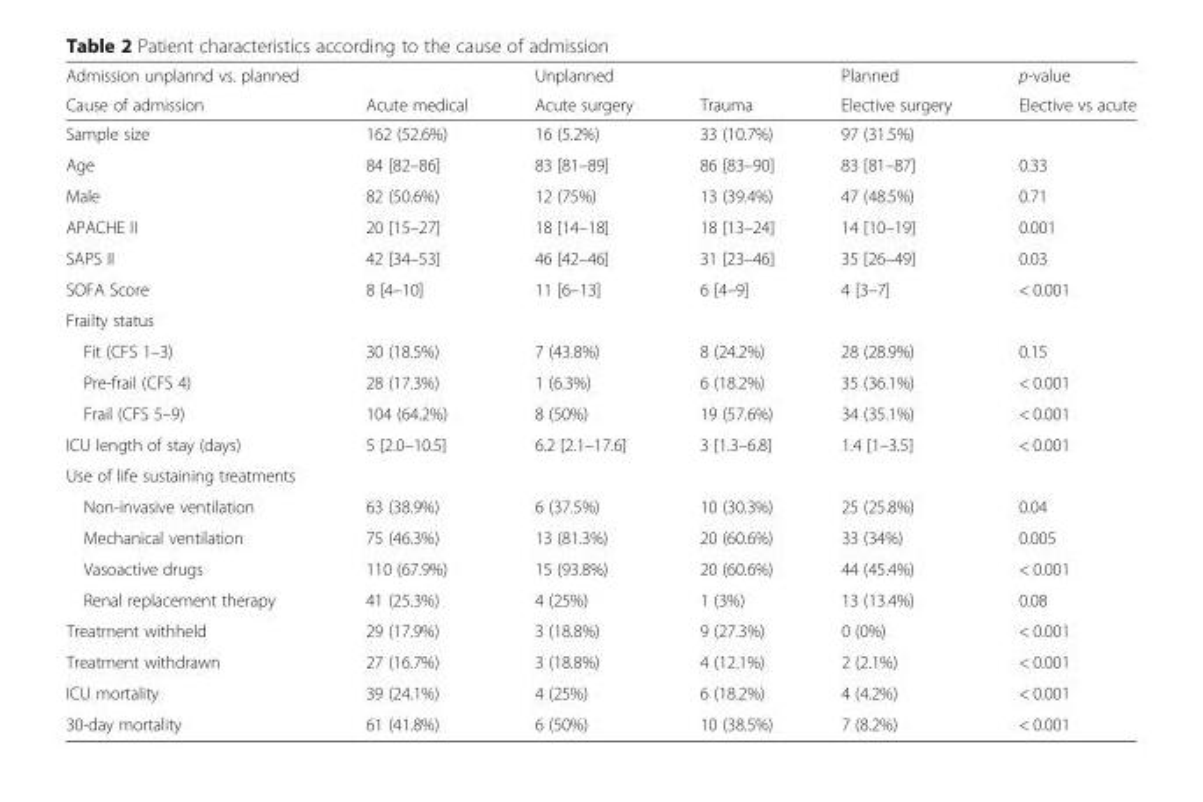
<table><thead><tr><td rowspan="2">Admission unplannd vs. planned Cause of admission</td><td rowspan="2">Acute medical</td><td rowspan="2">Unplanned Acute surgery</td><td rowspan="2">Trauma</td><td rowspan="2">Planned Elective surgery</td><td rowspan="2">p-value Elective vs acute</td></tr><tr></tr></thead><tbody><tr><td>Sample size</td><td>162 (52.6%)</td><td>16 (5.2%)</td><td>33 (10.7%)</td><td>97 (31.5%)</td><td></td></tr><tr><td>Age</td><td>84 [82–86]</td><td>83 [81–89]</td><td>86 [83–90]</td><td>83 [81–87]</td><td>0.33</td></tr><tr><td>Male</td><td>82 (50.6%)</td><td>12 (75%)</td><td>13 (39.4%)</td><td>47 (48.5%)</td><td>0.71</td></tr><tr><td>APACHE II</td><td>20 [15–27]</td><td>18 [14–18]</td><td>18 [13–24]</td><td>14 [10–19]</td><td>0.001</td></tr><tr><td>SAPS II</td><td>42 [34–53]</td><td>46 [42–46]</td><td>31 [23–46]</td><td>35 [26–49]</td><td>0.03</td></tr><tr><td>SOFA Score</td><td>8 [4–10]</td><td>11 [6–13]</td><td>6 [4–9]</td><td>4 [3–7]</td><td>&lt; 0.001</td></tr><tr><td colspan="6">Frailty status</td></tr><tr><td>Fit (CFS 1–3)</td><td>30 (18.5%)</td><td>7 (43.8%)</td><td>8 (24.2%)</td><td>28 (28.9%)</td><td>0.15</td></tr><tr><td>Pre-frail (CFS 4)</td><td>28 (17.3%)</td><td>1 (6.3%)</td><td>6 (18.2%)</td><td>35 (36.1%)</td><td>&lt; 0.001</td></tr><tr><td>Frail (CFS 5–9)</td><td>104 (64.2%)</td><td>8 (50%)</td><td>19 (57.6%)</td><td>34 (35.1%)</td><td>&lt; 0.001</td></tr><tr><td>ICU length of stay (days)</td><td>5 [2.0–10.5]</td><td>6.2 [2.1–17.6]</td><td>3 [1.3–6.8]</td><td>1.4 [1–3.5]</td><td>&lt; 0.001</td></tr><tr><td colspan="6">Use of life sustaining treatments</td></tr><tr><td>Non-invasive ventilation</td><td>63 (38.9%)</td><td>6 (37.5%)</td><td>10 (30.3%)</td><td>25 (25.8%)</td><td>0.04</td></tr><tr><td>Mechanical ventilation</td><td>75 (46.3%)</td><td>13 (81.3%)</td><td>20 (60.6%)</td><td>33 (34%)</td><td>0.005</td></tr><tr><td>Vasoactive drugs</td><td>110 (67.9%)</td><td>15 (93.8%)</td><td>20 (60.6%)</td><td>44 (45.4%)</td><td>&lt; 0.001</td></tr><tr><td>Renal replacement therapy</td><td>41 (25.3%)</td><td>4 (25%)</td><td>1 (3%)</td><td>13 (13.4%)</td><td>0.08</td></tr><tr><td>Treatment withheld</td><td>29 (17.9%)</td><td>3 (18.8%)</td><td>9 (27.3%)</td><td>0 (0%)</td><td>&lt; 0.001</td></tr><tr><td>Treatment withdrawn</td><td>27 (16.7%)</td><td>3 (18.8%)</td><td>4 (12.1%)</td><td>2 (2.1%)</td><td>&lt; 0.001</td></tr><tr><td>ICU mortality</td><td>39 (24.1%)</td><td>4 (25%)</td><td>6 (18.2%)</td><td>4 (4.2%)</td><td>&lt; 0.001</td></tr><tr><td>30-day mortality</td><td>61 (41.8%)</td><td>6 (50%)</td><td>10 (38.5%)</td><td>7 (8.2%)</td><td>&lt; 0.001</td></tr></tbody></table>